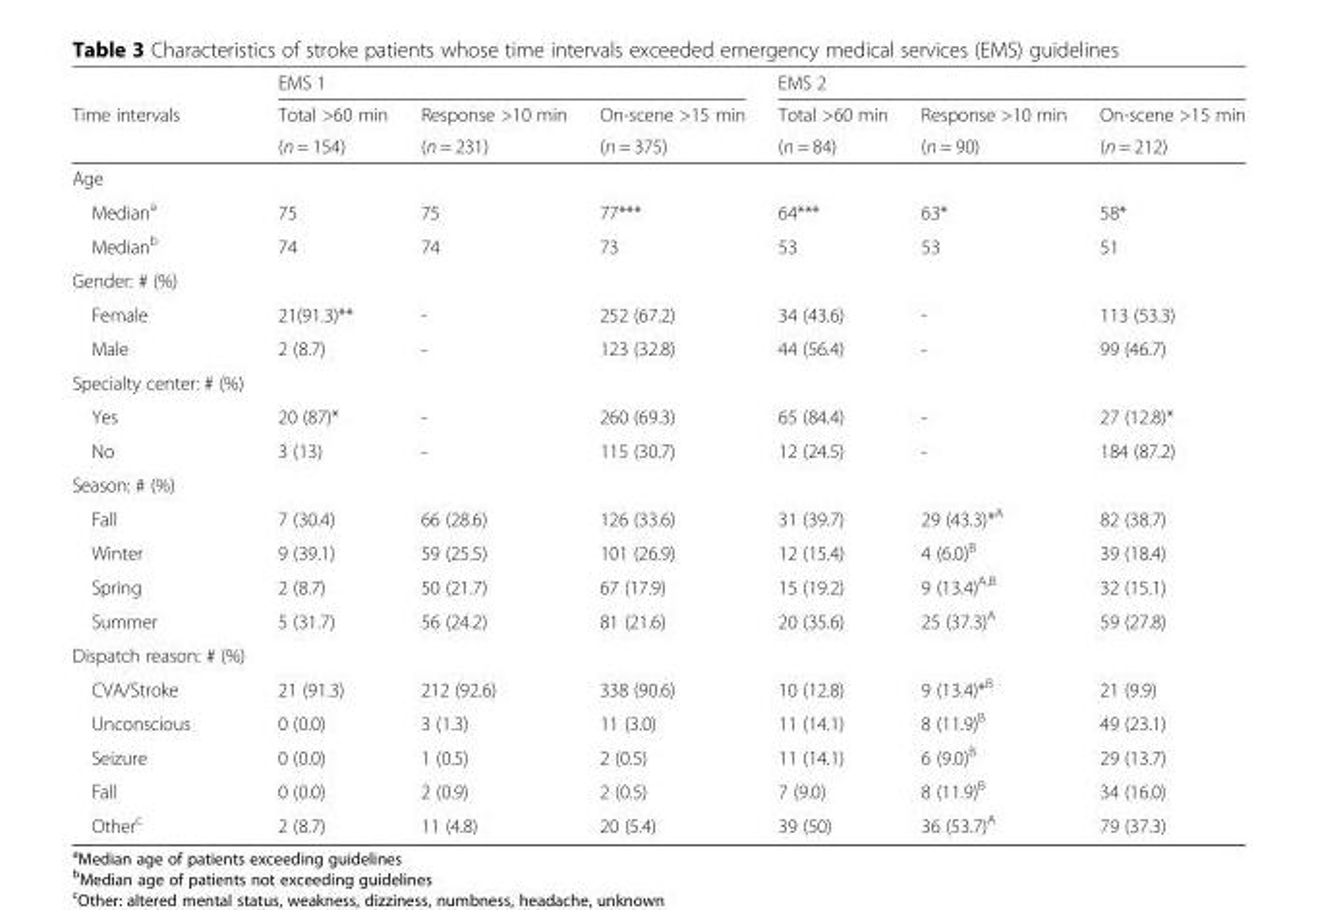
<table><thead><tr><td rowspan="3">Time intervals</td><td colspan="3">EMS 1</td><td colspan="3">EMS 2</td></tr><tr><td rowspan="2">Total &gt;60 min (n = 154)</td><td rowspan="2">Response &gt;10 min (n = 231)</td><td rowspan="2">On-scene &gt;15 min (n = 375)</td><td rowspan="2">Total &gt;60 min (n = 84)</td><td rowspan="2">Response &gt;10 min (n = 90)</td><td rowspan="2">On-scene &gt;15 min (n = 212)</td></tr><tr></tr></thead><tbody><tr><td colspan="7">Age</td></tr><tr><td>Median<sup>a</sup></td><td>75</td><td>75</td><td>77***</td><td>64***</td><td>63*</td><td>58*</td></tr><tr><td>Median<sup>b</sup></td><td>74</td><td>74</td><td>73</td><td>53</td><td>53</td><td>51</td></tr><tr><td colspan="7">Gender: # (%)</td></tr><tr><td>Female</td><td>21(91.3)**</td><td>-</td><td>252 (67.2)</td><td>34 (43.6)</td><td>-</td><td>113 (53.3)</td></tr><tr><td>Male</td><td>2 (8.7)</td><td>-</td><td>123 (32.8)</td><td>44 (56.4)</td><td>-</td><td>99 (46.7)</td></tr><tr><td colspan="7">Specialty center: # (%)</td></tr><tr><td>Yes</td><td>20 (87)*</td><td>-</td><td>260 (69.3)</td><td>65 (84.4)</td><td>-</td><td>27 (12.8)*</td></tr><tr><td>No</td><td>3 (13)</td><td>-</td><td>115 (30.7)</td><td>12 (24.5)</td><td>-</td><td>184 (87.2)</td></tr><tr><td colspan="7">Season: # (%)</td></tr><tr><td>Fall</td><td>7 (30.4)</td><td>66 (28.6)</td><td>126 (33.6)</td><td>31 (39.7)</td><td>29 (43.3)*<sup>A</sup></td><td>82 (38.7)</td></tr><tr><td>Winter</td><td>9 (39.1)</td><td>59 (25.5)</td><td>101 (26.9)</td><td>12 (15.4)</td><td>4 (6.0)<sup>B</sup></td><td>39 (18.4)</td></tr><tr><td>Spring</td><td>2 (8.7)</td><td>50 (21.7)</td><td>67 (17.9)</td><td>15 (19.2)</td><td>9 (13.4)<sup>A,B</sup></td><td>32 (15.1)</td></tr><tr><td>Summer</td><td>5 (31.7)</td><td>56 (24.2)</td><td>81 (21.6)</td><td>20 (35.6)</td><td>25 (37.3)<sup>A</sup></td><td>59 (27.8)</td></tr><tr><td colspan="7">Dispatch reason: # (%)</td></tr><tr><td>CVA/Stroke</td><td>21 (91.3)</td><td>212 (92.6)</td><td>338 (90.6)</td><td>10 (12.8)</td><td>9 (13.4)*<sup>B</sup></td><td>21 (9.9)</td></tr><tr><td>Unconscious</td><td>0 (0.0)</td><td>3 (1.3)</td><td>11 (3.0)</td><td>11 (14.1)</td><td>8 (11.9)<sup>B</sup></td><td>49 (23.1)</td></tr><tr><td>Seizure</td><td>0 (0.0)</td><td>1 (0.5)</td><td>2 (0.5)</td><td>11 (14.1)</td><td>6 (9.0)<sup>B</sup></td><td>29 (13.7)</td></tr><tr><td>Fall</td><td>0 (0.0)</td><td>2 (0.9)</td><td>2 (0.5)</td><td>7 (9.0)</td><td>8 (11.9)<sup>B</sup></td><td>34 (16.0)</td></tr><tr><td>Other<sup>c</sup></td><td>2 (8.7)</td><td>11 (4.8)</td><td>20 (5.4)</td><td>39 (50)</td><td>36 (53.7)<sup>A</sup></td><td>79 (37.3)</td></tr></tbody></table>